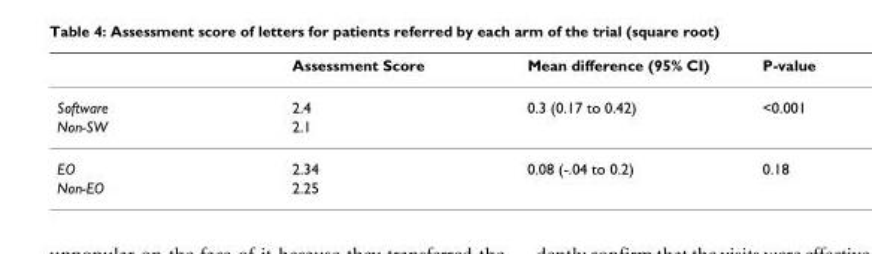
<table><thead><tr><td></td><td>Assessment Score</td><td>Mean difference (95% CI)</td><td>P-value</td></tr></thead><tbody><tr><td>Software</td><td>2.4</td><td>0.3 (0.17 to 0.42)</td><td>&lt;0.001</td></tr><tr><td>Non-SW</td><td>2.1</td><td></td><td></td></tr><tr><td>EO</td><td>2.34</td><td>0.08 (-.04 to 0.2)</td><td>0.18</td></tr><tr><td>Non-EO</td><td>2.25</td><td></td><td></td></tr></tbody></table>